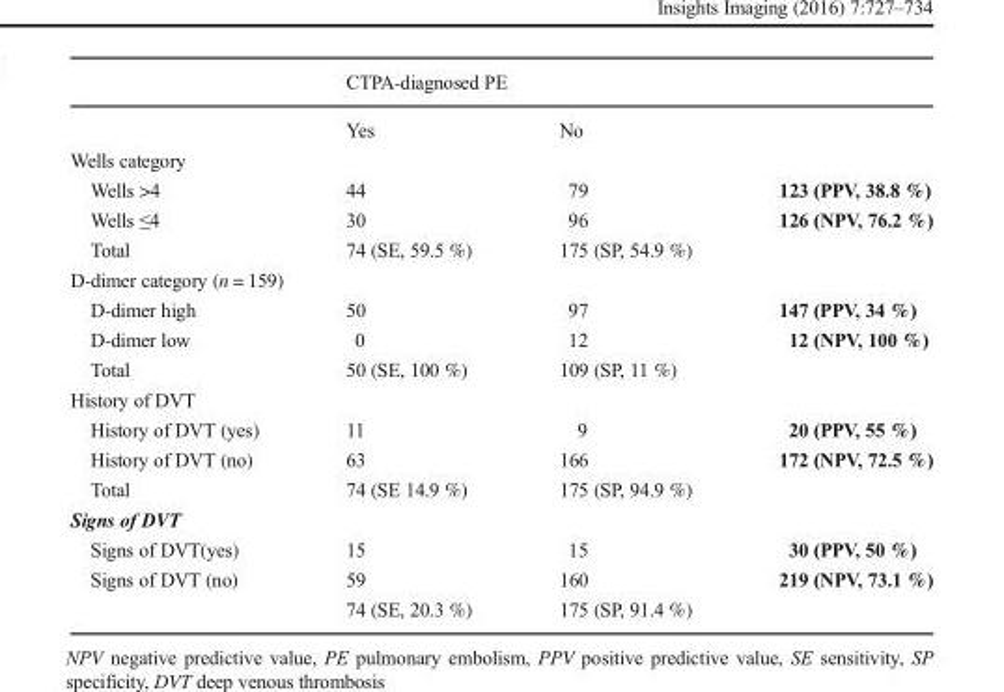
<table><thead><tr><td rowspan="2"></td><td colspan="2">CTPA-diagnosed PE</td><td rowspan="2"></td></tr><tr><td>Yes</td><td>No</td></tr></thead><tbody><tr><td colspan="4">Wells category</td></tr><tr><td>Wells &gt;4</td><td>44</td><td>79</td><td>123 (PPV, 38.8 %)</td></tr><tr><td>Wells ≤4</td><td>30</td><td>96</td><td>126 (NPV, 76.2 %)</td></tr><tr><td>Total</td><td>74 (SE, 59.5 %)</td><td>175 (SP, 54.9 %)</td><td></td></tr><tr><td colspan="4">D-dimer category (n = 159)</td></tr><tr><td>D-dimer high</td><td>50</td><td>97</td><td>147 (PPV, 34 %)</td></tr><tr><td>D-dimer low</td><td>0</td><td>12</td><td>12 (NPV, 100 %)</td></tr><tr><td>Total</td><td>50 (SE, 100 %)</td><td>109 (SP, 11 %)</td><td></td></tr><tr><td colspan="4">History of DVT</td></tr><tr><td>History of DVT (yes)</td><td>11</td><td>9</td><td>20 (PPV, 55 %)</td></tr><tr><td>History of DVT (no)</td><td>63</td><td>166</td><td>172 (NPV, 72.5 %)</td></tr><tr><td>Total</td><td>74 (SE 14.9 %)</td><td>175 (SP, 94.9 %)</td><td></td></tr><tr><td colspan="4">Signs of DVT</td></tr><tr><td>Signs of DVT(yes)</td><td>15</td><td>15</td><td>30 (PPV, 50 %)</td></tr><tr><td rowspan="2">Signs of DVT (no)</td><td>59</td><td>160</td><td>219 (NPV, 73.1 %)</td></tr><tr><td>74 (SE, 20.3 %)</td><td>175 (SP, 91.4 %)</td><td></td></tr></tbody></table>